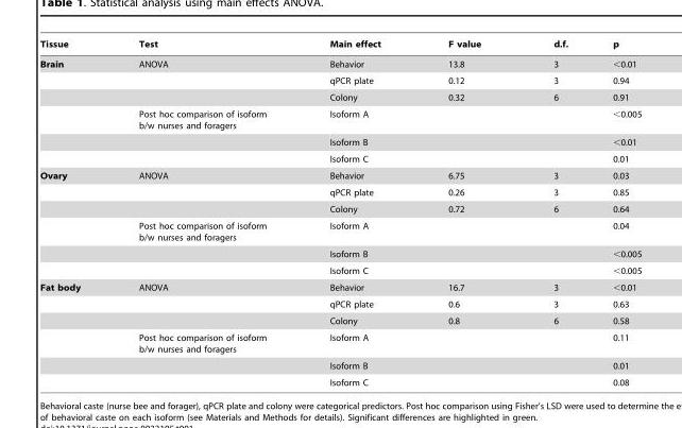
<table><thead><tr><td>Tissue</td><td>Test</td><td>Main effect</td><td>F value</td><td>d.f.</td><td>p</td></tr></thead><tbody><tr><td rowspan="6">Brain</td><td>ANOVA</td><td>Behavior</td><td>13.8</td><td>3</td><td>&lt;0.01</td></tr><tr><td></td><td>qPCR plate</td><td>0.12</td><td>3</td><td>0.94</td></tr><tr><td></td><td>Colony</td><td>0.32</td><td>6</td><td>0.91</td></tr><tr><td>Post hoc comparison of isoform b/w nurses and foragers</td><td colspan="3">Isoform A</td><td>&lt;0.005</td></tr><tr><td></td><td colspan="3">Isoform B</td><td>&lt;0.01</td></tr><tr><td></td><td colspan="3">Isoform C</td><td>0.01</td></tr><tr><td rowspan="6">Ovary</td><td>ANOVA</td><td>Behavior</td><td>6.75</td><td>3</td><td>0.03</td></tr><tr><td></td><td>qPCR plate</td><td>0.26</td><td>3</td><td>0.85</td></tr><tr><td></td><td>Colony</td><td>0.72</td><td>6</td><td>0.64</td></tr><tr><td>Post hoc comparison of isoform b/w nurses and foragers</td><td colspan="3">Isoform A</td><td>0.04</td></tr><tr><td></td><td colspan="3">Isoform B</td><td>&lt;0.005</td></tr><tr><td></td><td colspan="3">Isoform C</td><td>&lt;0.005</td></tr><tr><td rowspan="6">Fat body</td><td>ANOVA</td><td>Behavior</td><td>16.7</td><td>3</td><td>&lt;0.01</td></tr><tr><td></td><td>qPCR plate</td><td>0.6</td><td>3</td><td>0.63</td></tr><tr><td></td><td>Colony</td><td>0.8</td><td>6</td><td>0.58</td></tr><tr><td>Post hoc comparison of isoform b/w nurses and foragers</td><td colspan="3">Isoform A</td><td>0.11</td></tr><tr><td></td><td colspan="3">Isoform B</td><td>0.01</td></tr><tr><td></td><td colspan="3">Isoform C</td><td>0.08</td></tr></tbody></table>